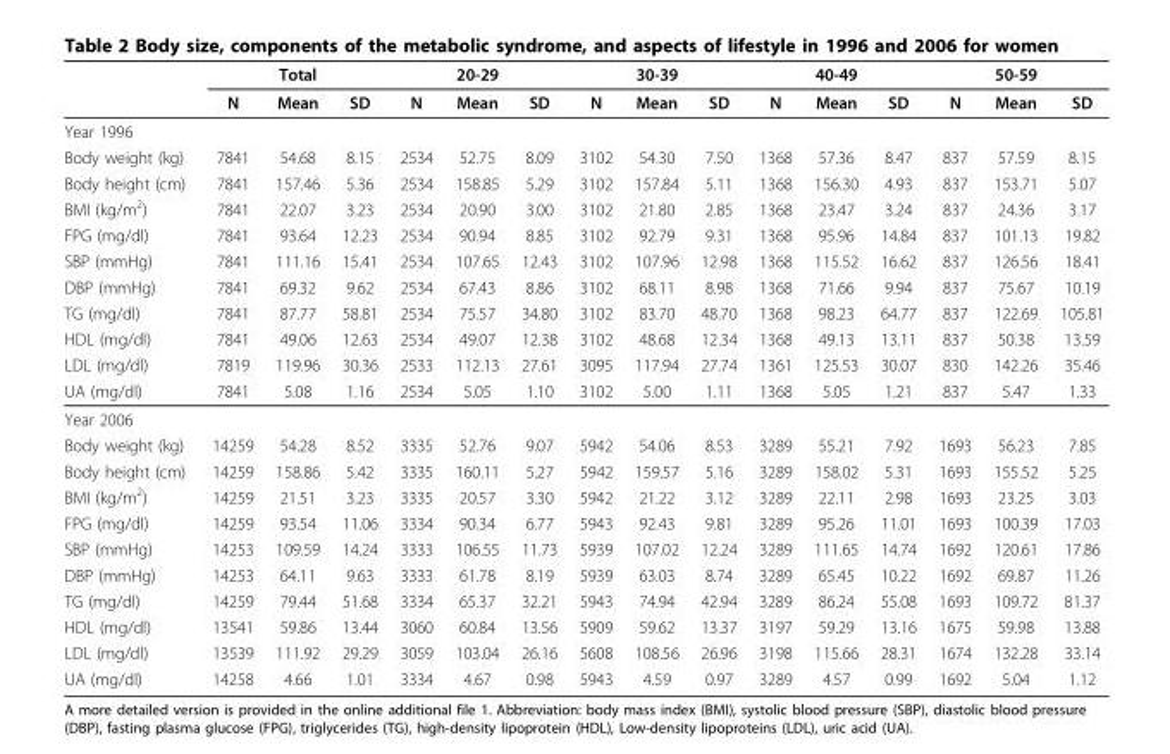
<table><thead><tr><td rowspan="2"></td><td rowspan="2">N</td><td rowspan="2">Total Mean</td><td rowspan="2">SD</td><td rowspan="2">N</td><td rowspan="2">20-29 Mean</td><td rowspan="2">SD</td><td rowspan="2">N</td><td rowspan="2">30-39 Mean</td><td rowspan="2">SD</td><td rowspan="2">N</td><td rowspan="2">40-49 Mean</td><td rowspan="2">SD</td><td rowspan="2">N</td><td rowspan="2">50-59 Mean</td><td rowspan="2">SD</td></tr><tr></tr></thead><tbody><tr><td colspan="16">Year 1996</td></tr><tr><td>Body weight (kg)</td><td>7841</td><td>54.68</td><td>8.15</td><td>2534</td><td>52.75</td><td>8.09</td><td>3102</td><td>54.30</td><td>7.50</td><td>1368</td><td>57.36</td><td>8.47</td><td>837</td><td>57.59</td><td>8.15</td></tr><tr><td>Body height (cm)</td><td>7841</td><td>157.46</td><td>5.36</td><td>2534</td><td>158.85</td><td>5.29</td><td>3102</td><td>157.84</td><td>5.11</td><td>1368</td><td>156.30</td><td>4.93</td><td>837</td><td>153.71</td><td>5.07</td></tr><tr><td>BMI (kg/m<sup>2</sup>)</td><td>7841</td><td>22.07</td><td>3.23</td><td>2534</td><td>20.90</td><td>3.00</td><td>3102</td><td>21.80</td><td>2.85</td><td>1368</td><td>23.47</td><td>3.24</td><td>837</td><td>24.36</td><td>3.17</td></tr><tr><td>FPG (mg/dl)</td><td>7841</td><td>93.64</td><td>12.23</td><td>2534</td><td>90.94</td><td>8.85</td><td>3102</td><td>92.79</td><td>9.31</td><td>1368</td><td>95.96</td><td>14.84</td><td>837</td><td>101.13</td><td>19.82</td></tr><tr><td>SBP (mmHg)</td><td>7841</td><td>111.16</td><td>15.41</td><td>2534</td><td>107.65</td><td>12.43</td><td>3102</td><td>107.96</td><td>12.98</td><td>1368</td><td>115.52</td><td>16.62</td><td>837</td><td>126.56</td><td>18.41</td></tr><tr><td>DBP (mmHg)</td><td>7841</td><td>69.32</td><td>9.62</td><td>2534</td><td>67.43</td><td>8.86</td><td>3102</td><td>68.11</td><td>8.98</td><td>1368</td><td>71.66</td><td>9.94</td><td>837</td><td>75.67</td><td>10.19</td></tr><tr><td>TG (mg/dl)</td><td>7841</td><td>87.77</td><td>58.81</td><td>2534</td><td>75.57</td><td>34.80</td><td>3102</td><td>83.70</td><td>48.70</td><td>1368</td><td>98.23</td><td>64.77</td><td>837</td><td>122.69</td><td>105.81</td></tr><tr><td>HDL (mg/dl)</td><td>7841</td><td>49.06</td><td>12.63</td><td>2534</td><td>49.07</td><td>12.38</td><td>3102</td><td>48.68</td><td>12.34</td><td>1368</td><td>49.13</td><td>13.11</td><td>837</td><td>50.38</td><td>13.59</td></tr><tr><td>LDL (mg/dl)</td><td>7819</td><td>119.96</td><td>30.36</td><td>2533</td><td>112.13</td><td>27.61</td><td>3095</td><td>117.94</td><td>27.74</td><td>1361</td><td>125.53</td><td>30.07</td><td>830</td><td>142.26</td><td>35.46</td></tr><tr><td>UA (mg/dl)</td><td>7841</td><td>5.08</td><td>1.16</td><td>2534</td><td>5.05</td><td>1.10</td><td>3102</td><td>5.00</td><td>1.11</td><td>1368</td><td>5.05</td><td>1.21</td><td>837</td><td>5.47</td><td>1.33</td></tr><tr><td colspan="16">Year 2006</td></tr><tr><td>Body weight (kg)</td><td>14259</td><td>54.28</td><td>8.52</td><td>3335</td><td>52.76</td><td>9.07</td><td>5942</td><td>54.06</td><td>8.53</td><td>3289</td><td>55.21</td><td>7.92</td><td>1693</td><td>56.23</td><td>7.85</td></tr><tr><td>Body height (cm)</td><td>14259</td><td>158.86</td><td>5.42</td><td>3335</td><td>160.11</td><td>5.27</td><td>5942</td><td>159.57</td><td>5.16</td><td>3289</td><td>158.02</td><td>5.31</td><td>1693</td><td>155.52</td><td>5.25</td></tr><tr><td>BMI (kg/m<sup>2</sup>)</td><td>14259</td><td>21.51</td><td>3.23</td><td>3335</td><td>20.57</td><td>3.30</td><td>5942</td><td>21.22</td><td>3.12</td><td>3289</td><td>22.11</td><td>2.98</td><td>1693</td><td>23.25</td><td>3.03</td></tr><tr><td>FPG (mg/dl)</td><td>14259</td><td>93.54</td><td>11.06</td><td>3334</td><td>90.34</td><td>6.77</td><td>5943</td><td>92.43</td><td>9.81</td><td>3289</td><td>95.26</td><td>11.01</td><td>1693</td><td>100.39</td><td>17.03</td></tr><tr><td>SBP (mmHg)</td><td>14253</td><td>109.59</td><td>14.24</td><td>3333</td><td>106.55</td><td>11.73</td><td>5939</td><td>107.02</td><td>12.24</td><td>3289</td><td>111.65</td><td>14.74</td><td>1692</td><td>120.61</td><td>17.86</td></tr><tr><td>DBP (mmHg)</td><td>14253</td><td>64.11</td><td>9.63</td><td>3333</td><td>61.78</td><td>8.19</td><td>5939</td><td>63.03</td><td>8.74</td><td>3289</td><td>65.45</td><td>10.22</td><td>1692</td><td>69.87</td><td>11.26</td></tr><tr><td>TG (mg/dl)</td><td>14259</td><td>79.44</td><td>51.68</td><td>3334</td><td>65.37</td><td>32.21</td><td>5943</td><td>74.94</td><td>42.94</td><td>3289</td><td>86.24</td><td>55.08</td><td>1693</td><td>109.72</td><td>81.37</td></tr><tr><td>HDL (mg/dl)</td><td>13541</td><td>59.86</td><td>13.44</td><td>3060</td><td>60.84</td><td>13.56</td><td>5909</td><td>59.62</td><td>13.37</td><td>3197</td><td>59.29</td><td>13.16</td><td>1675</td><td>59.98</td><td>13.88</td></tr><tr><td>LDL (mg/dl)</td><td>13539</td><td>111.92</td><td>29.29</td><td>3059</td><td>103.04</td><td>26.16</td><td>5608</td><td>108.56</td><td>26.96</td><td>3198</td><td>115.66</td><td>28.31</td><td>1674</td><td>132.28</td><td>33.14</td></tr><tr><td>UA (mg/dl)</td><td>14258</td><td>4.66</td><td>1.01</td><td>3334</td><td>4.67</td><td>0.98</td><td>5943</td><td>4.59</td><td>0.97</td><td>3289</td><td>4.57</td><td>0.99</td><td>1692</td><td>5.04</td><td>1.12</td></tr></tbody></table>